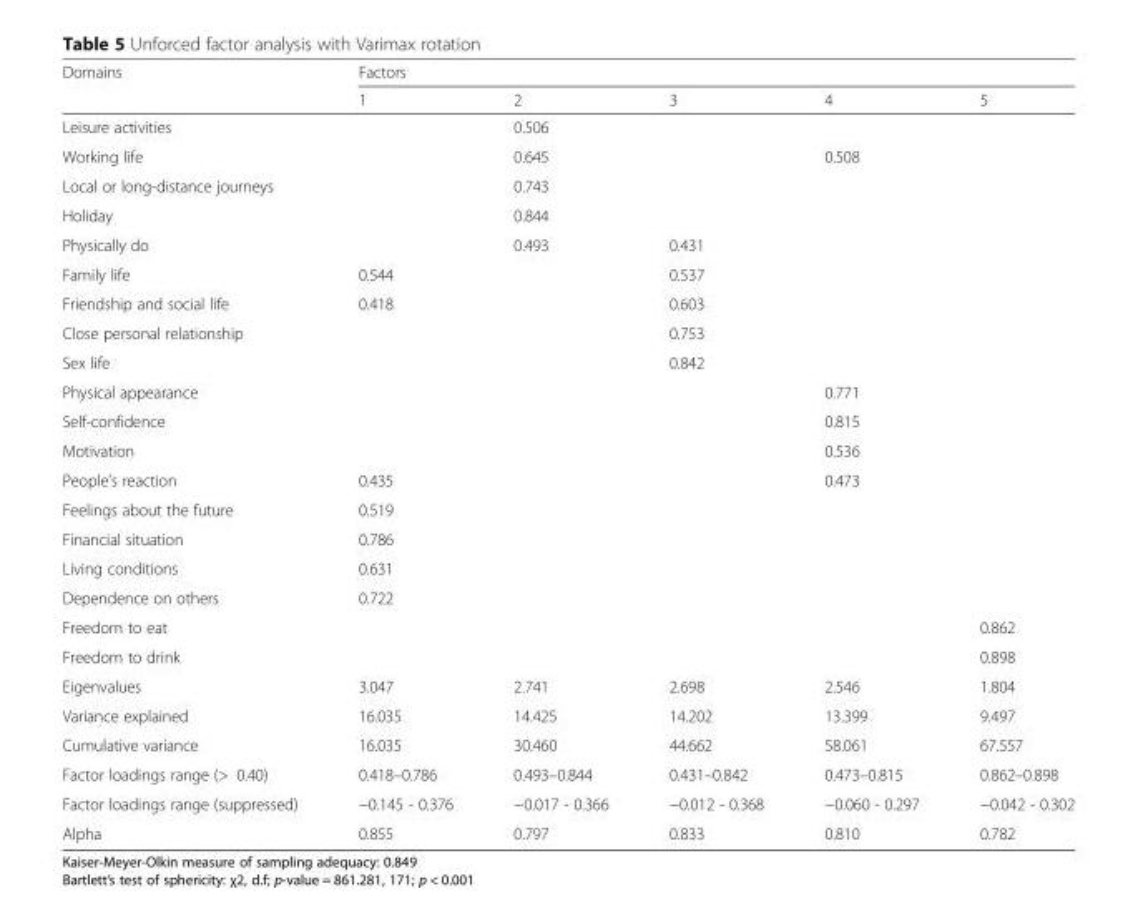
<table><thead><tr><td rowspan="2">Domains</td><td colspan="5">Factors</td></tr><tr><td>1</td><td>2</td><td>3</td><td>4</td><td>5</td></tr></thead><tbody><tr><td>Leisure activities</td><td></td><td>0.506</td><td></td><td></td><td></td></tr><tr><td>Working life</td><td></td><td>0.645</td><td></td><td>0.508</td><td></td></tr><tr><td>Local or long-distance journeys</td><td></td><td>0.743</td><td></td><td></td><td></td></tr><tr><td>Holiday</td><td></td><td>0.844</td><td></td><td></td><td></td></tr><tr><td>Physically do</td><td></td><td>0.493</td><td>0.431</td><td></td><td></td></tr><tr><td>Family life</td><td>0.544</td><td></td><td>0.537</td><td></td><td></td></tr><tr><td>Friendship and social life</td><td>0.418</td><td></td><td>0.603</td><td></td><td></td></tr><tr><td>Close personal relationship</td><td></td><td></td><td>0.753</td><td></td><td></td></tr><tr><td>Sex life</td><td></td><td></td><td>0.842</td><td></td><td></td></tr><tr><td>Physical appearance</td><td></td><td></td><td></td><td>0.771</td><td></td></tr><tr><td>Self-confidence</td><td></td><td></td><td></td><td>0.815</td><td></td></tr><tr><td>Motivation</td><td></td><td></td><td></td><td>0.536</td><td></td></tr><tr><td>People’s reaction</td><td>0.435</td><td></td><td></td><td>0.473</td><td></td></tr><tr><td>Feelings about the future</td><td>0.519</td><td></td><td></td><td></td><td></td></tr><tr><td>Financial situation</td><td>0.786</td><td></td><td></td><td></td><td></td></tr><tr><td>Living conditions</td><td>0.631</td><td></td><td></td><td></td><td></td></tr><tr><td>Dependence on others</td><td>0.722</td><td></td><td></td><td></td><td></td></tr><tr><td>Freedom to eat</td><td></td><td></td><td></td><td></td><td>0.862</td></tr><tr><td>Freedom to drink</td><td></td><td></td><td></td><td></td><td>0.898</td></tr><tr><td>Eigenvalues</td><td>3.047</td><td>2.741</td><td>2.698</td><td>2.546</td><td>1.804</td></tr><tr><td>Variance explained</td><td>16.035</td><td>14.425</td><td>14.202</td><td>13.399</td><td>9.497</td></tr><tr><td>Cumulative variance</td><td>16.035</td><td>30.460</td><td>44.662</td><td>58.061</td><td>67.557</td></tr><tr><td>Factor loadings range (&gt; 0.40)</td><td>0.418–0.786</td><td>0.493–0.844</td><td>0.431–0.842</td><td>0.473–0.815</td><td>0.862–0.898</td></tr><tr><td>Factor loadings range (suppressed)</td><td>−0.145 - 0.376</td><td>−0.017 - 0.366</td><td>−0.012 - 0.368</td><td>−0.060 - 0.297</td><td>−0.042 - 0.302</td></tr><tr><td>Alpha</td><td>0.855</td><td>0.797</td><td>0.833</td><td>0.810</td><td>0.782</td></tr></tbody></table>